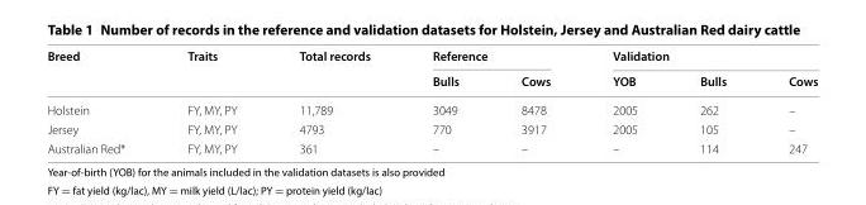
<table><thead><tr><td rowspan="2">Breed</td><td rowspan="2">Traits</td><td rowspan="2">Total records</td><td colspan="2">Reference</td><td colspan="3">Validation</td></tr><tr><td>Bulls</td><td>Cows</td><td>YOB</td><td>Bulls</td><td>Cows</td></tr></thead><tbody><tr><td>Holstein</td><td>FY, MY, PY</td><td>11,789</td><td>3049</td><td>8478</td><td>2005</td><td>262</td><td>–</td></tr><tr><td>Jersey</td><td>FY, MY, PY</td><td>4793</td><td>770</td><td>3917</td><td>2005</td><td>105</td><td>–</td></tr><tr><td>Australian Red*</td><td>FY, MY, PY</td><td>361</td><td>–</td><td>–</td><td>–</td><td>114</td><td>247</td></tr></tbody></table>